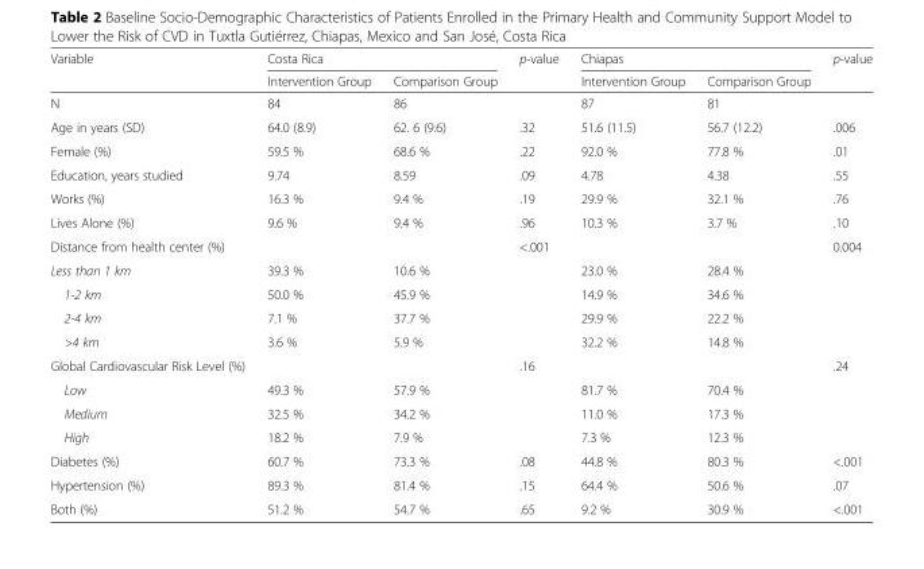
<table><thead><tr><td rowspan="2">Variable</td><td colspan="2">Costa Rica</td><td rowspan="2">p-value</td><td colspan="2">Chiapas</td><td rowspan="2">p-value</td></tr><tr><td>Intervention Group</td><td>Comparison Group</td><td>Intervention Group</td><td>Comparison Group</td></tr></thead><tbody><tr><td>N</td><td>84</td><td>86</td><td></td><td>87</td><td>81</td><td></td></tr><tr><td>Age in years (SD)</td><td>64.0 (8.9)</td><td>62. 6 (9.6)</td><td>.32</td><td>51.6 (11.5)</td><td>56.7 (12.2)</td><td>.006</td></tr><tr><td>Female (%)</td><td>59.5 %</td><td>68.6 %</td><td>.22</td><td>92.0 %</td><td>77.8 %</td><td>.01</td></tr><tr><td>Education, years studied</td><td>9.74</td><td>8.59</td><td>.09</td><td>4.78</td><td>4.38</td><td>.55</td></tr><tr><td>Works (%)</td><td>16.3 %</td><td>9.4 %</td><td>.19</td><td>29.9 %</td><td>32.1 %</td><td>.76</td></tr><tr><td>Lives Alone (%)</td><td>9.6 %</td><td>9.4 %</td><td>.96</td><td>10.3 %</td><td>3.7 %</td><td>.10</td></tr><tr><td>Distance from health center (%)</td><td></td><td></td><td>&lt;.001</td><td></td><td></td><td>0.004</td></tr><tr><td>Less than 1 km</td><td>39.3 %</td><td>10.6 %</td><td></td><td>23.0 %</td><td>28.4 %</td><td></td></tr><tr><td>1-2 km</td><td>50.0 %</td><td>45.9 %</td><td></td><td>14.9 %</td><td>34.6 %</td><td></td></tr><tr><td>2-4 km</td><td>7.1 %</td><td>37.7 %</td><td></td><td>29.9 %</td><td>22.2 %</td><td></td></tr><tr><td>&gt;4 km</td><td>3.6 %</td><td>5.9 %</td><td></td><td>32.2 %</td><td>14.8 %</td><td></td></tr><tr><td>Global Cardiovascular Risk Level (%)</td><td></td><td></td><td>.16</td><td></td><td></td><td>.24</td></tr><tr><td>Low</td><td>49.3 %</td><td>57.9 %</td><td></td><td>81.7 %</td><td>70.4 %</td><td></td></tr><tr><td>Medium</td><td>32.5 %</td><td>34.2 %</td><td></td><td>11.0 %</td><td>17.3 %</td><td></td></tr><tr><td>High</td><td>18.2 %</td><td>7.9 %</td><td></td><td>7.3 %</td><td>12.3 %</td><td></td></tr><tr><td>Diabetes (%)</td><td>60.7 %</td><td>73.3 %</td><td>.08</td><td>44.8 %</td><td>80.3 %</td><td>&lt;.001</td></tr><tr><td>Hypertension (%)</td><td>89.3 %</td><td>81.4 %</td><td>.15</td><td>64.4 %</td><td>50.6 %</td><td>.07</td></tr><tr><td>Both (%)</td><td>51.2 %</td><td>54.7 %</td><td>.65</td><td>9.2 %</td><td>30.9 %</td><td>&lt;.001</td></tr></tbody></table>